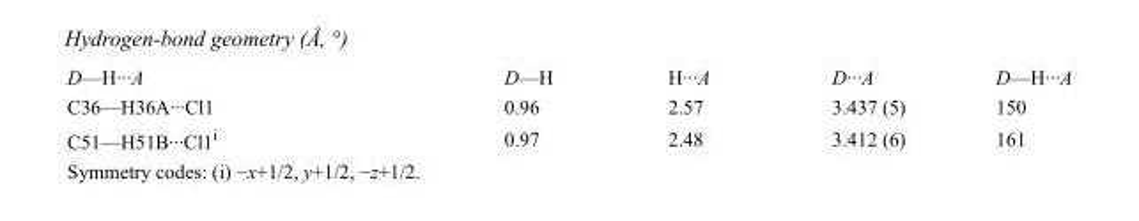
<table><tbody><tr><td>D—H···A</td><td>D—H</td><td>H···A</td><td>D···A</td><td>D—H···A</td></tr><tr><td>C36—H36A···Cl1</td><td>0.96</td><td>2.57</td><td>3.437 (5)</td><td>150</td></tr><tr><td>C51—H51B···Cl1<sup>i</sup></td><td>0.97</td><td>2.48</td><td>3.412 (6)</td><td>161</td></tr></tbody></table>